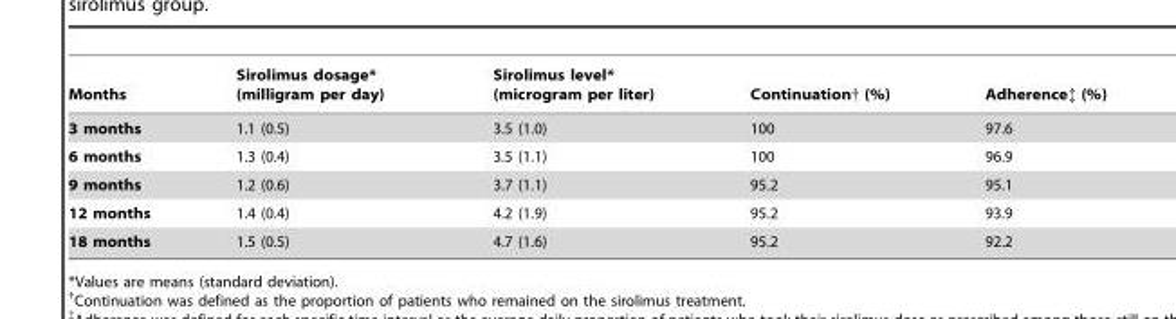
<table><thead><tr><td>Months</td><td>Sirolimus dosage* (milligram per day)</td><td>Sirolimus level* (microgram per liter)</td><td>Continuation† (%)</td><td>Adherence‡ (%)</td></tr></thead><tbody><tr><td>3 months</td><td>1.1 (0.5)</td><td>3.5 (1.0)</td><td>100</td><td>97.6</td></tr><tr><td>6 months</td><td>1.3 (0.4)</td><td>3.5 (1.1)</td><td>100</td><td>96.9</td></tr><tr><td>9 months</td><td>1.2 (0.6)</td><td>3.7 (1.1)</td><td>95.2</td><td>95.1</td></tr><tr><td>12 months</td><td>1.4 (0.4)</td><td>4.2 (1.9)</td><td>95.2</td><td>93.9</td></tr><tr><td>18 months</td><td>1.5 (0.5)</td><td>4.7 (1.6)</td><td>95.2</td><td>92.2</td></tr></tbody></table>